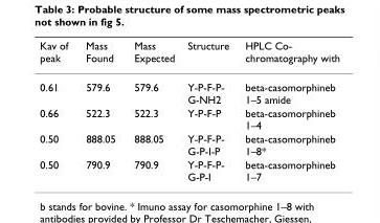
<table><thead><tr><td>Kav of peak</td><td>Mass Found</td><td>Mass Expected</td><td>Structure</td><td>HPLC Co- chromatography with</td></tr></thead><tbody><tr><td>0.61</td><td>579.6</td><td>579.6</td><td>Y-P-F-P- G-NH2</td><td>beta-casomorphineb 1–5 amide</td></tr><tr><td>0.66</td><td>522.3</td><td>522.3</td><td>Y-P-F-P</td><td>beta-casomorphineb 1–4</td></tr><tr><td>0.50</td><td>888.05</td><td>888.05</td><td>Y-P-F-P- G-P-I-P</td><td>beta-casomorphineb 1–8*</td></tr><tr><td>0.50</td><td>790.9</td><td>790.9</td><td>Y-P-F-P- G-P-I</td><td>beta-casomorphineb 1–7</td></tr></tbody></table>